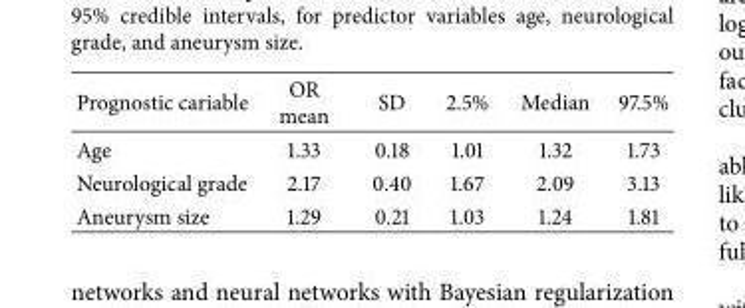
<table><thead><tr><td>Prognostic cariable</td><td>OR mean</td><td>SD</td><td>2.5%</td><td>Median</td><td>97.5%</td></tr></thead><tbody><tr><td>Age</td><td>1.33</td><td>0.18</td><td>1.01</td><td>1.32</td><td>1.73</td></tr><tr><td>Neurological grade</td><td>2.17</td><td>0.40</td><td>1.67</td><td>2.09</td><td>3.13</td></tr><tr><td>Aneurysm size</td><td>1.29</td><td>0.21</td><td>1.03</td><td>1.24</td><td>1.81</td></tr></tbody></table>